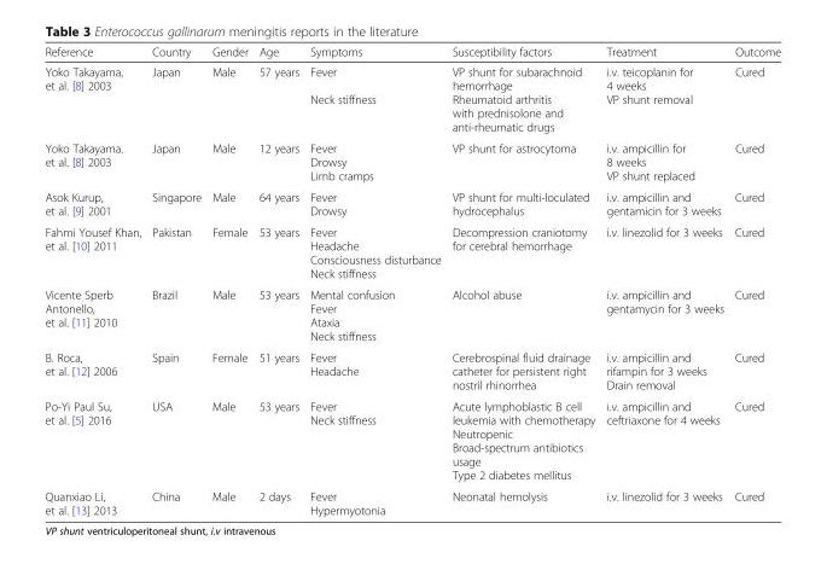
<table><thead><tr><td>Reference</td><td>Country</td><td>Gender</td><td>Age</td><td>Symptoms</td><td>Susceptibility factors</td><td>Treatment</td><td>Outcome</td></tr></thead><tbody><tr><td>Yoko Takayama, et al. [8] 2003</td><td>Japan</td><td>Male</td><td>57 years</td><td>Fever Neck stiffness</td><td>VP shunt for subarachnoid hemorrhage Rheumatoid arthritis with prednisolone and anti-rheumatic drugs</td><td>i.v. teicoplanin for 4 weeks VP shunt removal</td><td>Cured</td></tr><tr><td>Yoko Takayama. et al. [8] 2003</td><td>Japan</td><td>Male</td><td>12 years</td><td>Fever Drowsy Limb cramps</td><td>VP shunt for astrocytoma</td><td>i.v. ampicillin for 8 weeks VP shunt replaced</td><td>Cured</td></tr><tr><td>Asok Kurup, et al. [9] 2001</td><td>Singapore</td><td>Male</td><td>64 years</td><td>Fever Drowsy</td><td>VP shunt for multi-loculated hydrocephalus</td><td>i.v. ampicillin and gentamicin for 3 weeks</td><td>Cured</td></tr><tr><td>Fahmi Yousef Khan, et al. [10] 2011</td><td>Pakistan</td><td>Female</td><td>53 years</td><td>Fever Headache Consciousness disturbance Neck stiffness</td><td>Decompression craniotomy for cerebral hemorrhage</td><td>i.v. linezolid for 3 weeks</td><td>Cured</td></tr><tr><td>Vicente Sperb Antonello, et al. [11] 2010</td><td>Brazil</td><td>Male</td><td>53 years</td><td>Mental confusion Fever Ataxia Neck stiffness</td><td>Alcohol abuse</td><td>i.v. ampicillin and gentamycin for 3 weeks</td><td>Cured</td></tr><tr><td>B. Roca, et al. [12] 2006</td><td>Spain</td><td>Female</td><td>51 years</td><td>Fever Headache</td><td>Cerebrospinal fluid drainage catheter for persistent right nostril rhinorrhea</td><td>i.v. ampicillin and rifampin for 3 weeks Drain removal</td><td>Cured</td></tr><tr><td>Po-Yi Paul Su, et al. [5] 2016</td><td>USA</td><td>Male</td><td>53 years</td><td>Fever Neck stiffness</td><td>Acute lymphoblastic B cell leukemia with chemotherapy Neutropenic Broad-spectrum antibiotics usage Type 2 diabetes mellitus</td><td>i.v. ampicillin and ceftriaxone for 4 weeks</td><td>Cured</td></tr><tr><td>Quanxiao Li, et al. [13] 2013</td><td>China</td><td>Male</td><td>2 days</td><td>Fever Hypermyotonia</td><td>Neonatal hemolysis</td><td>i.v. linezolid for 3 weeks</td><td>Cured</td></tr></tbody></table>